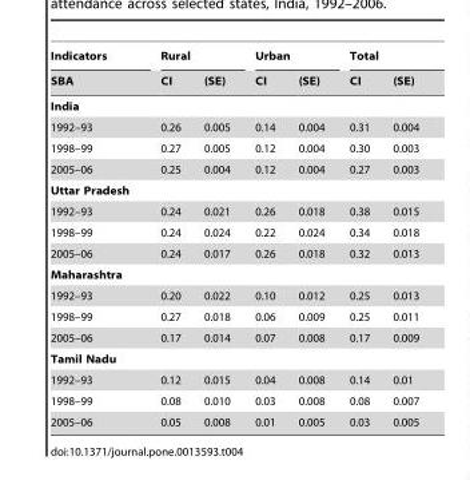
<table><thead><tr><td rowspan="2">Indicators SBA</td><td colspan="2">Rural</td><td colspan="2">Urban</td><td colspan="2">Total</td></tr><tr><td>CI</td><td>(SE)</td><td>CI</td><td>(SE)</td><td>CI</td><td>(SE)</td></tr></thead><tbody><tr><td colspan="7">India</td></tr><tr><td>1992–93</td><td>0.26</td><td>0.005</td><td>0.14</td><td>0.004</td><td>0.31</td><td>0.004</td></tr><tr><td>1998–99</td><td>0.27</td><td>0.005</td><td>0.12</td><td>0.004</td><td>0.30</td><td>0.003</td></tr><tr><td>2005–06</td><td>0.25</td><td>0.004</td><td>0.12</td><td>0.004</td><td>0.27</td><td>0.003</td></tr><tr><td colspan="7">Uttar Pradesh</td></tr><tr><td>1992–93</td><td>0.24</td><td>0.021</td><td>0.26</td><td>0.018</td><td>0.38</td><td>0.015</td></tr><tr><td>1998–99</td><td>0.24</td><td>0.024</td><td>0.22</td><td>0.024</td><td>0.34</td><td>0.018</td></tr><tr><td>2005–06</td><td>0.24</td><td>0.017</td><td>0.26</td><td>0.018</td><td>0.32</td><td>0.013</td></tr><tr><td colspan="7">Maharashtra</td></tr><tr><td>1992–93</td><td>0.20</td><td>0.022</td><td>0.10</td><td>0.012</td><td>0.25</td><td>0.013</td></tr><tr><td>1998–99</td><td>0.27</td><td>0.018</td><td>0.06</td><td>0.009</td><td>0.25</td><td>0.011</td></tr><tr><td>2005–06</td><td>0.17</td><td>0.014</td><td>0.07</td><td>0.008</td><td>0.17</td><td>0.009</td></tr><tr><td colspan="7">Tamil Nadu</td></tr><tr><td>1992–93</td><td>0.12</td><td>0.015</td><td>0.04</td><td>0.008</td><td>0.14</td><td>0.01</td></tr><tr><td>1998–99</td><td>0.08</td><td>0.010</td><td>0.03</td><td>0.008</td><td>0.08</td><td>0.007</td></tr><tr><td>2005–06</td><td>0.05</td><td>0.008</td><td>0.01</td><td>0.005</td><td>0.03</td><td>0.005</td></tr></tbody></table>